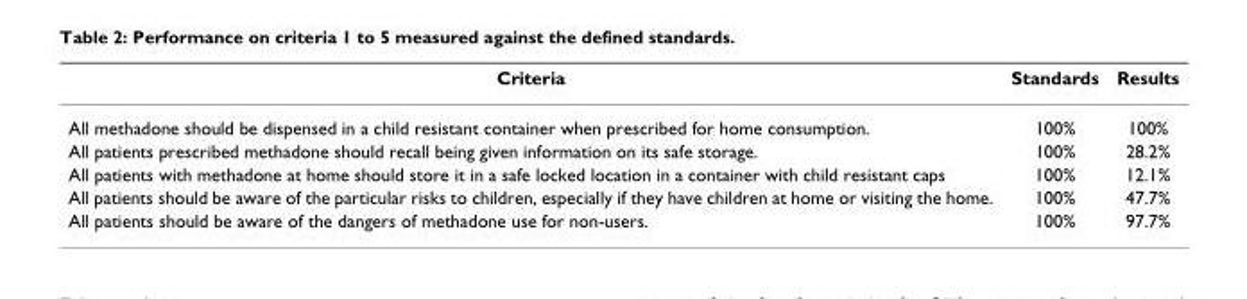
<table><thead><tr><td>Criteria</td><td>Standards</td><td>Results</td></tr></thead><tbody><tr><td>All methadone should be dispensed in a child resistant container when prescribed for home consumption.</td><td>100%</td><td>100%</td></tr><tr><td>All patients prescribed methadone should recall being given information on its safe storage.</td><td>100%</td><td>28.2%</td></tr><tr><td>All patients with methadone at home should store it in a safe locked location in a container with child resistant caps</td><td>100%</td><td>12.1%</td></tr><tr><td>All patients should be aware of the particular risks to children, especially if they have children at home or visiting the home.</td><td>100%</td><td>47.7%</td></tr><tr><td>All patients should be aware of the dangers of methadone use for non-users.</td><td>100%</td><td>97.7%</td></tr></tbody></table>